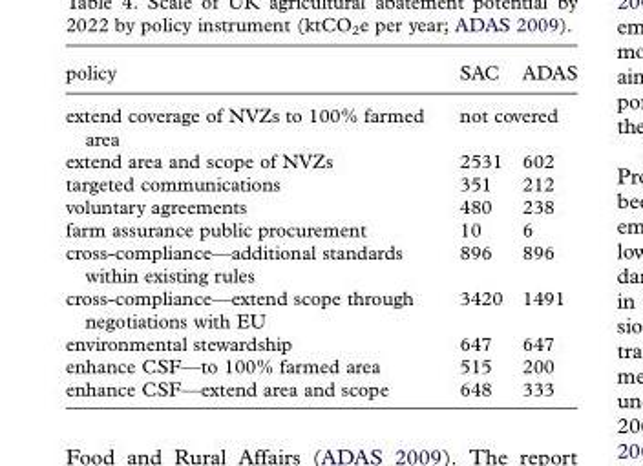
<table><thead><tr><td>policy</td><td>SAC</td><td>ADAS</td></tr></thead><tbody><tr><td>extend coverage of NVZs to 100% farmed area</td><td colspan="2">not covered</td></tr><tr><td>extend area and scope of NVZs</td><td>2531</td><td>602</td></tr><tr><td>targeted communications</td><td>351</td><td>212</td></tr><tr><td>voluntary agreements</td><td>480</td><td>238</td></tr><tr><td>farm assurance public procurement</td><td>10</td><td>6</td></tr><tr><td>cross-compliance—additional standards within existing rules</td><td>896</td><td>896</td></tr><tr><td>cross-compliance—extend scope through negotiations with EU</td><td>3420</td><td>1491</td></tr><tr><td>environmental stewardship</td><td>647</td><td>647</td></tr><tr><td>enhance CSF—to 100% farmed area</td><td>515</td><td>200</td></tr><tr><td>enhance CSF—extend area and scope</td><td>648</td><td>333</td></tr></tbody></table>